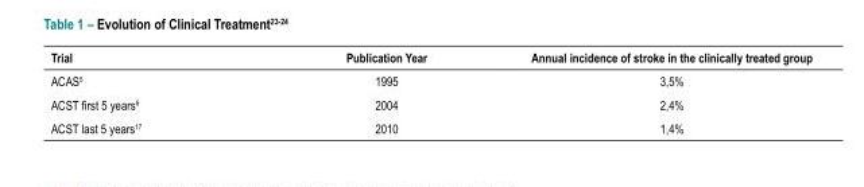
<table><thead><tr><td>Trial</td><td>Publication Year</td><td>Annual incidence of stroke in the clinically treated group</td></tr></thead><tbody><tr><td>ACAS<sup>5</sup></td><td>1995</td><td>3,5%</td></tr><tr><td>ACST first 5 years<sup>6</sup></td><td>2004</td><td>2,4%</td></tr><tr><td>ACST last 5 years<sup>17</sup></td><td>2010</td><td>1,4%</td></tr></tbody></table>